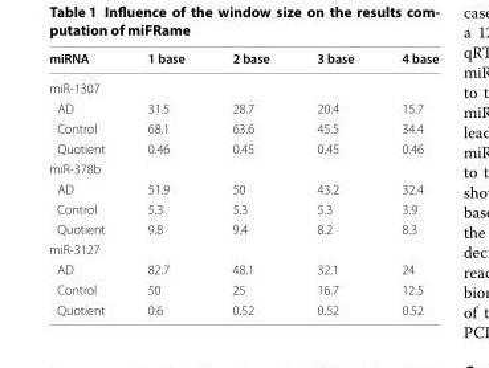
<table><thead><tr><td>miRNA</td><td>1 base</td><td>2 base</td><td>3 base</td><td>4 base</td></tr></thead><tbody><tr><td colspan="5">miR-1307</td></tr><tr><td>AD</td><td>31.5</td><td>28.7</td><td>20.4</td><td>15.7</td></tr><tr><td>Control</td><td>68.1</td><td>63.6</td><td>45.5</td><td>34.4</td></tr><tr><td>Quotient</td><td>0.46</td><td>0.45</td><td>0.45</td><td>0.46</td></tr><tr><td colspan="5">miR-378b</td></tr><tr><td>AD</td><td>51.9</td><td>50</td><td>43.2</td><td>32.4</td></tr><tr><td>Control</td><td>5.3</td><td>5.3</td><td>5.3</td><td>3.9</td></tr><tr><td>Quotient</td><td>9.8</td><td>9.4</td><td>8.2</td><td>8.3</td></tr><tr><td colspan="5">miR-3127</td></tr><tr><td>AD</td><td>82.7</td><td>48.1</td><td>32.1</td><td>24</td></tr><tr><td>Control</td><td>50</td><td>25</td><td>16.7</td><td>12.5</td></tr><tr><td>Quotient</td><td>0.6</td><td>0.52</td><td>0.52</td><td>0.52</td></tr></tbody></table>